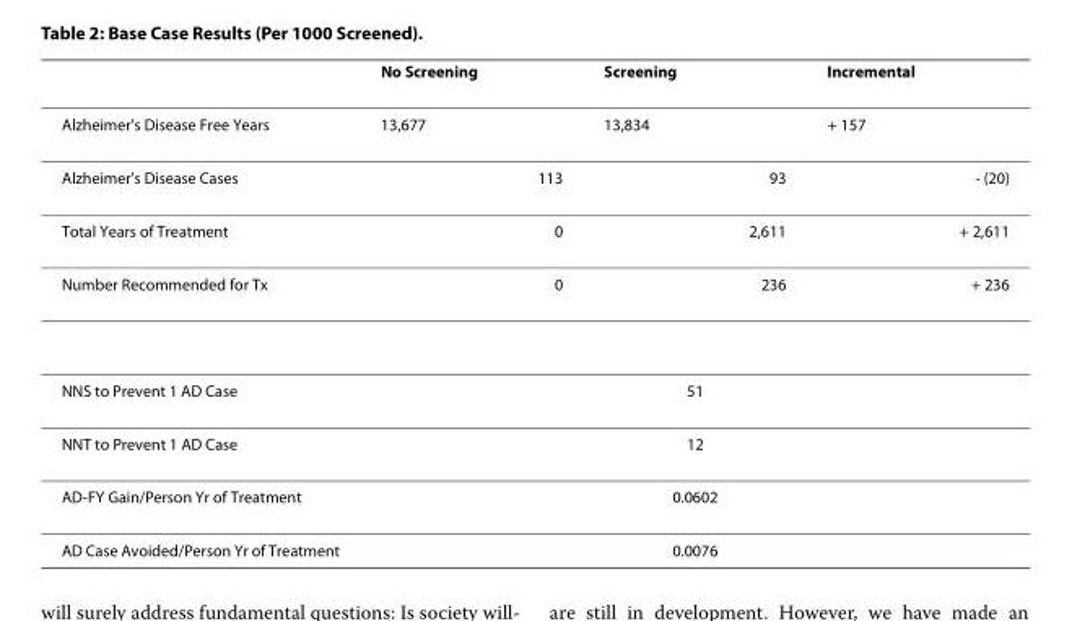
<table><thead><tr><td></td><td>No Screening</td><td>Screening</td><td>Incremental</td></tr></thead><tbody><tr><td>Alzheimer&#x27;s Disease Free Years</td><td>13,677</td><td>13,834</td><td>+ 157</td></tr><tr><td>Alzheimer&#x27;s Disease Cases</td><td>113</td><td>93</td><td>- (20)</td></tr><tr><td>Total Years of Treatment</td><td>0</td><td>2,611</td><td>+ 2,611</td></tr><tr><td>Number Recommended for Tx</td><td>0</td><td>236</td><td>+ 236</td></tr><tr><td>NNS to Prevent 1 AD Case</td><td colspan="3">51</td></tr><tr><td>NNT to Prevent 1 AD Case</td><td colspan="3">12</td></tr><tr><td>AD-FY Gain/Person Yr of Treatment</td><td colspan="3">0.0602</td></tr><tr><td>AD Case Avoided/Person Yr of Treatment</td><td colspan="3">0.0076</td></tr></tbody></table>